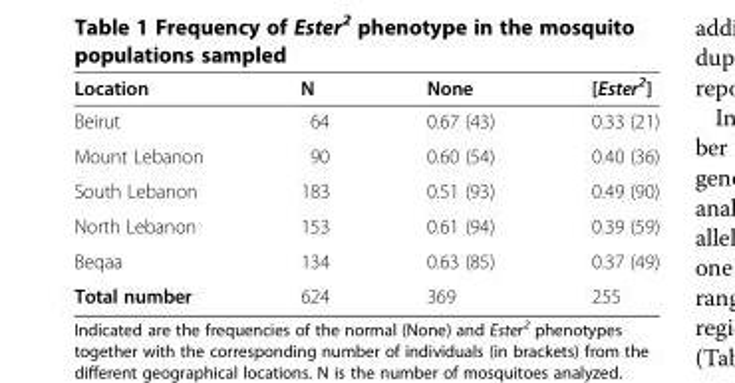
<table><thead><tr><td>Location</td><td>N</td><td>None</td><td>[Ester<sup>2</sup>]</td></tr></thead><tbody><tr><td>Beirut</td><td>64</td><td>0.67 (43)</td><td>0.33 (21)</td></tr><tr><td>Mount Lebanon</td><td>90</td><td>0.60 (54)</td><td>0.40 (36)</td></tr><tr><td>South Lebanon</td><td>183</td><td>0.51 (93)</td><td>0.49 (90)</td></tr><tr><td>North Lebanon</td><td>153</td><td>0.61 (94)</td><td>0.39 (59)</td></tr><tr><td>Beqaa</td><td>134</td><td>0.63 (85)</td><td>0.37 (49)</td></tr><tr><td>Total number</td><td>624</td><td>369</td><td>255</td></tr></tbody></table>